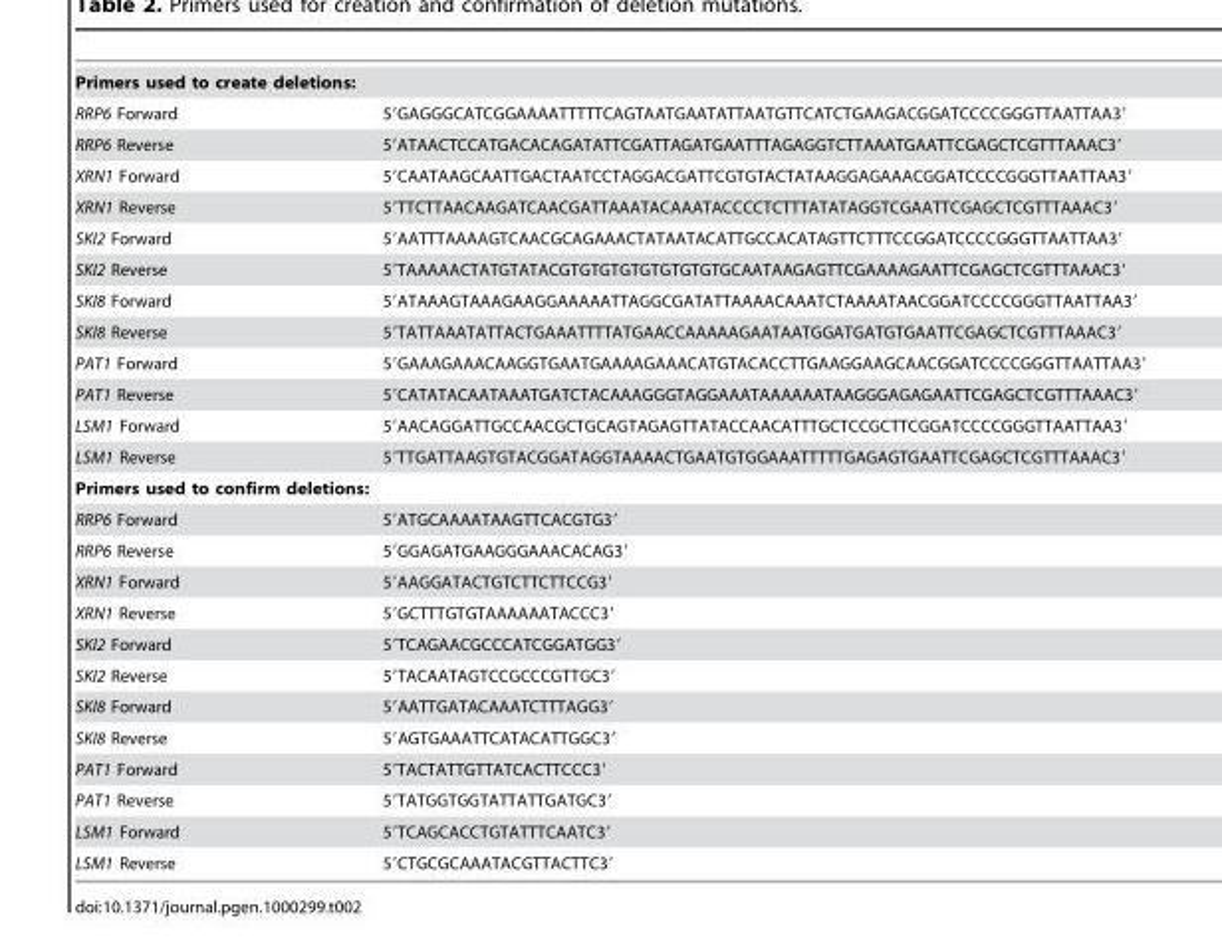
<table><tbody><tr><td colspan="2">Primers used to create deletions:</td></tr><tr><td>RRP6 Forward</td><td>5′GAGGGCATCGGAAAATTTTTCAGTAATGAATATTAATGTTCATCTGAAGACGGATCCCCGGGTTAATTAA3′</td></tr><tr><td>RRP6 Reverse</td><td>5′ATAACTCCATGACACAGATATTCGATTAGATGAATTTAGAGGTCTTAAATGAATTCGAGCTCGTTTAAAC3′</td></tr><tr><td>XRN1 Forward</td><td>5′CAATAAGCAATTGACTAATCCTAGGACGATTCGTGTACTATAAGGAGAAACGGATCCCCGGGTTAATTAA3′</td></tr><tr><td>XRN1 Reverse</td><td>5′TTCTTAACAAGATCAACGATTAAATACAAATACCCCTCTTTATATAGGTCGAATTCGAGCTCGTTTAAAC3′</td></tr><tr><td>SKI2 Forward</td><td>5′AATTTAAAAGTCAACGCAGAAACTATAATACATTGCCACATAGTTCTTTCCGGATCCCCGGGTTAATTAA3′</td></tr><tr><td>SKI2 Reverse</td><td>5′TAAAAACTATGTATACGTGTGTGTGTGTGTGTGCAATAAGAGTTCGAAAAGAATTCGAGCTCGTTTAAAC3′</td></tr><tr><td>SKI8 Forward</td><td>5′ATAAAGTAAAGAAGGAAAAATTAGGCGATATTAAAACAAATCTAAAATAACGGATCCCCGGGTTAATTAA3′</td></tr><tr><td>SKI8 Reverse</td><td>5′TATTAAATATTACTGAAATTTTATGAACCAAAAAGAATAATGGATGATGTGAATTCGAGCTCGTTTAAAC3′</td></tr><tr><td>PAT1 Forward</td><td>5′GAAAGAAACAAGGTGAATGAAAAGAAACATGTACACCTTGAAGGAAGCAACGGATCCCCGGGTTAATTAA3′</td></tr><tr><td>PAT1 Reverse</td><td>5′CATATACAATAAATGATCTACAAAGGGTAGGAAATAAAAAATAAGGGAGAGAATTCGAGCTCGTTTAAAC3′</td></tr><tr><td>LSM1 Forward</td><td>5′AACAGGATTGCCAACGCTGCAGTAGAGTTATACCAACATTTGCTCCGCTTCGGATCCCCGGGTTAATTAA3′</td></tr><tr><td>LSM1 Reverse</td><td>5′TTGATTAAGTGTACGGATAGGTAAAACTGAATGTGGAAATTTTTGAGAGTGAATTCGAGCTCGTTTAAAC3′</td></tr><tr><td colspan="2">Primers used to confirm deletions:</td></tr><tr><td>RRP6 Forward</td><td>5′ATGCAAAATAAGTTCACGTG3′</td></tr><tr><td>RRP6 Reverse</td><td>5′GGAGATGAAGGGAAACACAG3′</td></tr><tr><td>XRN1 Forward</td><td>5′AAGGATACTGTCTTCTTCCG3′</td></tr><tr><td>XRN1 Reverse</td><td>5′GCTTTGTGTAAAAAATACCC3′</td></tr><tr><td>SKI2 Forward</td><td>5′TCAGAACGCCCATCGGATGG3′</td></tr><tr><td>SKI2 Reverse</td><td>5′TACAATAGTCCGCCCGTTGC3′</td></tr><tr><td>SKI8 Forward</td><td>5′AATTGATACAAATCTTTAGG3′</td></tr><tr><td>SKI8 Reverse</td><td>5′AGTGAAATTCATACATTGGC3′</td></tr><tr><td>PAT1 Forward</td><td>5′TACTATTGTTATCACTTCCC3′</td></tr><tr><td>PAT1 Reverse</td><td>5′TATGGTGGTATTATTGATGC3′</td></tr><tr><td>LSM1 Forward</td><td>5′TCAGCACCTGTATTTCAATC3′</td></tr><tr><td>LSM1 Reverse</td><td>5′CTGCGCAAATACGTTACTTC3′</td></tr></tbody></table>